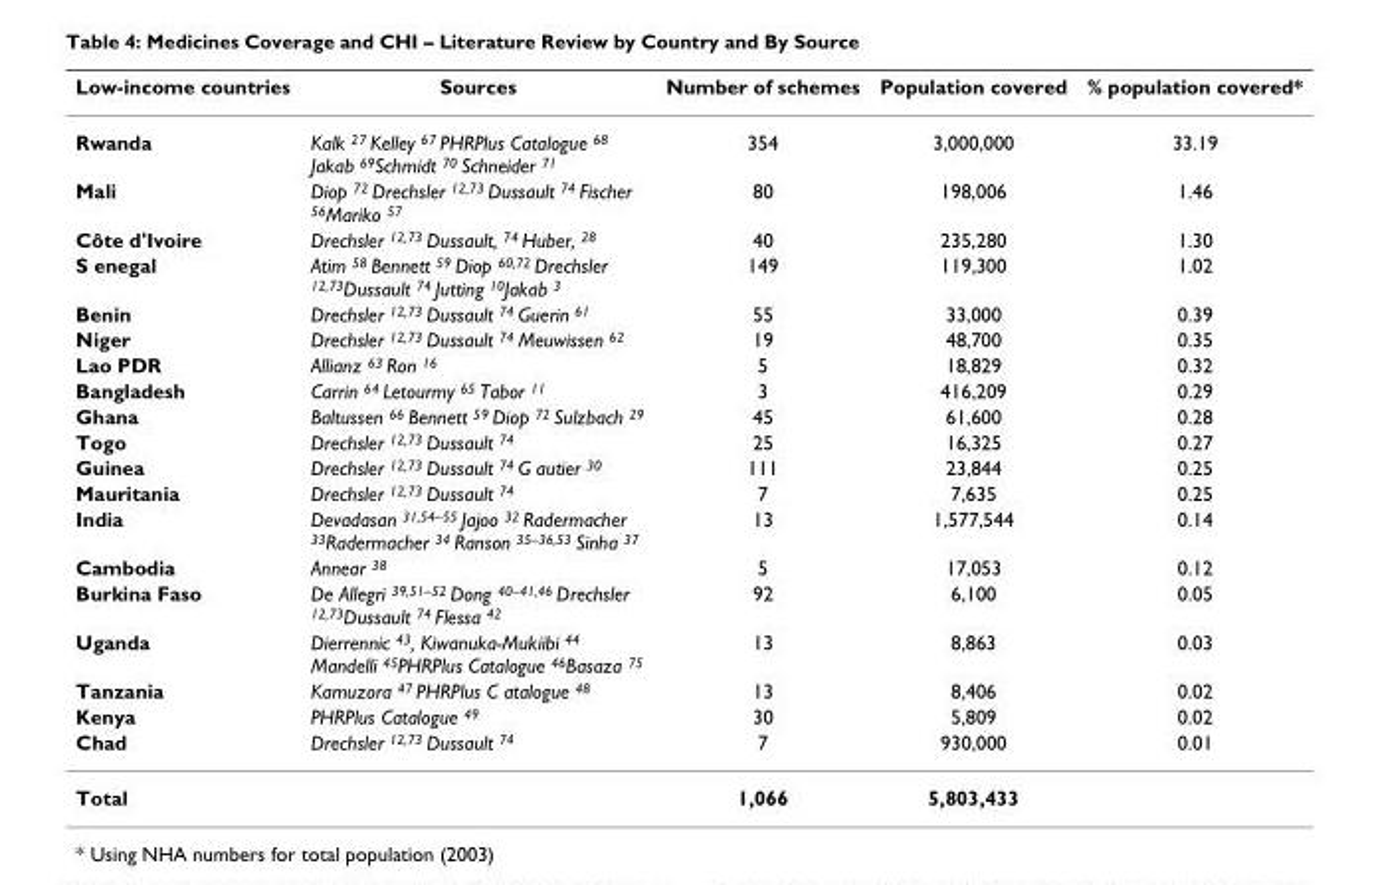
<table><thead><tr><td>Low-income countries</td><td>Sources</td><td>Number of schemes</td><td>Population covered</td><td>% population covered*</td></tr></thead><tbody><tr><td>Rwanda</td><td>Kalk <sup>27</sup> Kelley <sup>67</sup> PHRPlus Catalogue <sup>68</sup> Jakab <sup>69</sup>Schmidt <sup>70</sup> Schneider <sup>71</sup></td><td>354</td><td>3,000,000</td><td>33.19</td></tr><tr><td>Mali</td><td>Diop <sup>72</sup> Drechsler <sup>12,73</sup> Dussault <sup>74</sup> Fischer <sup>56</sup>Mariko <sup>57</sup></td><td>80</td><td>198,006</td><td>1.46</td></tr><tr><td>Côte d&#x27;Ivoire</td><td>Drechsler <sup>12,73</sup> Dussault, <sup>74</sup> Huber, <sup>28</sup></td><td>40</td><td>235,280</td><td>1.30</td></tr><tr><td>S enegal</td><td>Atim <sup>58</sup> Bennett <sup>59</sup> Diop <sup>60,72</sup> Drechsler <sup>12,73</sup>Dussault <sup>74</sup> Jutting <sup>10</sup>Jakab <sup>3</sup></td><td>149</td><td>119,300</td><td>1.02</td></tr><tr><td>Benin</td><td>Drechsler <sup>12,73</sup> Dussault <sup>74</sup> Guerin <sup>61</sup></td><td>55</td><td>33,000</td><td>0.39</td></tr><tr><td>Niger</td><td>Drechsler <sup>12,73</sup> Dussault <sup>74</sup> Meuwissen <sup>62</sup></td><td>19</td><td>48,700</td><td>0.35</td></tr><tr><td>Lao PDR</td><td>Allianz <sup>63</sup> Ron <sup>16</sup></td><td>5</td><td>18,829</td><td>0.32</td></tr><tr><td>Bangladesh</td><td>Carrin <sup>64</sup> Letourmy <sup>65</sup> Tabor <sup>11</sup></td><td>3</td><td>416,209</td><td>0.29</td></tr><tr><td>Ghana</td><td>Baltussen <sup>66</sup> Bennett <sup>59</sup> Diop <sup>72</sup> Sulzbach <sup>29</sup></td><td>45</td><td>61,600</td><td>0.28</td></tr><tr><td>Togo</td><td>Drechsler <sup>12,73</sup> Dussault <sup>74</sup></td><td>25</td><td>16,325</td><td>0.27</td></tr><tr><td>Guinea</td><td>Drechsler <sup>12,73</sup> Dussault <sup>74</sup> G autier <sup>30</sup></td><td>111</td><td>23,844</td><td>0.25</td></tr><tr><td>Mauritania</td><td>Drechsler <sup>12,73</sup> Dussault <sup>74</sup></td><td>7</td><td>7,635</td><td>0.25</td></tr><tr><td>India</td><td>Devadasan <sup>31,54–55</sup> Jajoo <sup>32</sup> Radermacher <sup>33</sup>Radermacher <sup>34</sup> Ranson <sup>35–36,53</sup> Sinha <sup>37</sup></td><td>13</td><td>1,577,544</td><td>0.14</td></tr><tr><td>Cambodia</td><td>Annear <sup>38</sup></td><td>5</td><td>17,053</td><td>0.12</td></tr><tr><td>Burkina Faso</td><td>De Allegri <sup>39,51–52</sup> Dong <sup>40–41,46</sup> Drechsler <sup>12,73</sup>Dussault <sup>74</sup> Flessa <sup>42</sup></td><td>92</td><td>6,100</td><td>0.05</td></tr><tr><td>Uganda</td><td>Dierrennic <sup>43</sup>, Kiwanuka-Mukiibi <sup>44</sup> Mandelli <sup>45</sup>PHRPlus Catalogue <sup>46</sup>Basaza <sup>75</sup></td><td>13</td><td>8,863</td><td>0.03</td></tr><tr><td>Tanzania</td><td>Kamuzora <sup>47</sup> PHRPlus C atalogue <sup>48</sup></td><td>13</td><td>8,406</td><td>0.02</td></tr><tr><td>Kenya</td><td>PHRPlus Catalogue <sup>49</sup></td><td>30</td><td>5,809</td><td>0.02</td></tr><tr><td>Chad</td><td>Drechsler <sup>12,73</sup> Dussault <sup>74</sup></td><td>7</td><td>930,000</td><td>0.01</td></tr><tr><td>Total</td><td></td><td>1,066</td><td>5,803,433</td><td></td></tr></tbody></table>